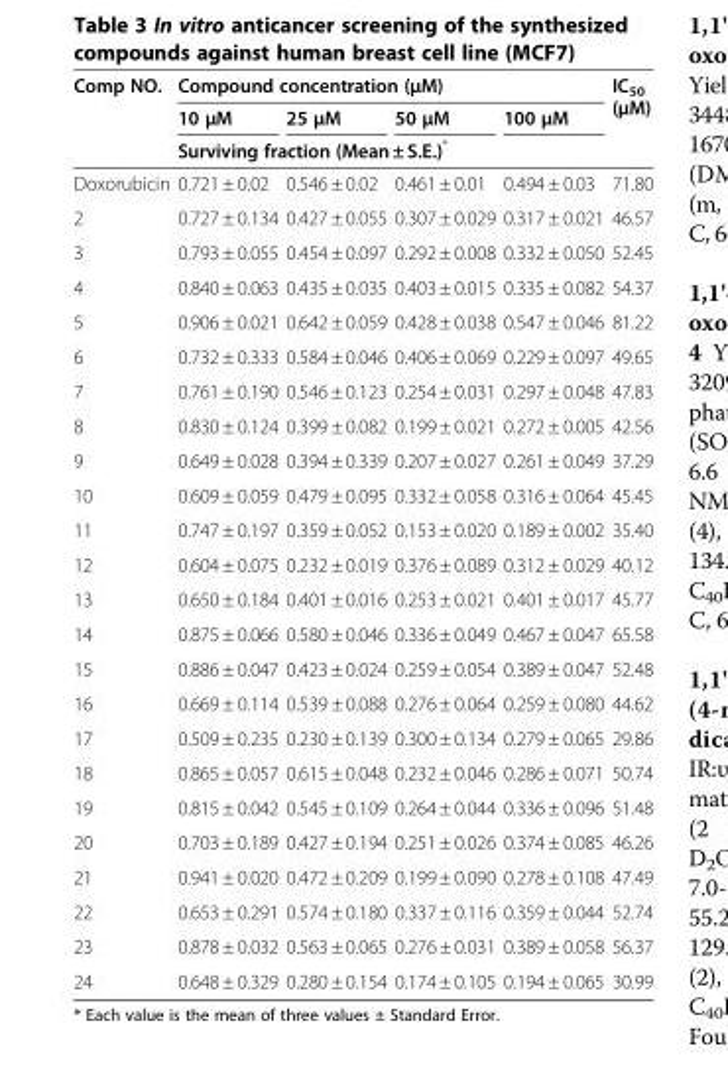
<table><thead><tr><td rowspan="3">Comp NO.</td><td colspan="4">Compound concentration (μM)</td><td rowspan="3">IC<sub>50</sub> (μM)</td></tr><tr><td>10 μM</td><td>25 μM</td><td>50 μM</td><td>100 μM</td></tr><tr><td colspan="4">Surviving fraction (Mean ± S.E.)*</td></tr></thead><tbody><tr><td>Doxorubicin</td><td>0.721 ± 0.02</td><td>0.546 ± 0.02</td><td>0.461 ± 0.01</td><td>0.494 ± 0.03</td><td>71.80</td></tr><tr><td>2</td><td>0.727 ± 0.134</td><td>0.427 ± 0.055</td><td>0.307 ± 0.029</td><td>0.317 ± 0.021</td><td>46.57</td></tr><tr><td>3</td><td>0.793 ± 0.055</td><td>0.454 ± 0.097</td><td>0.292 ± 0.008</td><td>0.332 ± 0.050</td><td>52.45</td></tr><tr><td>4</td><td>0.840 ± 0.063</td><td>0.435 ± 0.035</td><td>0.403 ± 0.015</td><td>0.335 ± 0.082</td><td>54.37</td></tr><tr><td>5</td><td>0.906 ± 0.021</td><td>0.642 ± 0.059</td><td>0.428 ± 0.038</td><td>0.547 ± 0.046</td><td>81.22</td></tr><tr><td>6</td><td>0.732 ± 0.333</td><td>0.584 ± 0.046</td><td>0.406 ± 0.069</td><td>0.229 ± 0.097</td><td>49.65</td></tr><tr><td>7</td><td>0.761 ± 0.190</td><td>0.546 ± 0.123</td><td>0.254 ± 0.031</td><td>0.297 ± 0.048</td><td>47.83</td></tr><tr><td>8</td><td>0.830 ± 0.124</td><td>0.399 ± 0.082</td><td>0.199 ± 0.021</td><td>0.272 ± 0.005</td><td>42.56</td></tr><tr><td>9</td><td>0.649 ± 0.028</td><td>0.394 ± 0.339</td><td>0.207 ± 0.027</td><td>0.261 ± 0.049</td><td>37.29</td></tr><tr><td>10</td><td>0.609 ± 0.059</td><td>0.479 ± 0.095</td><td>0.332 ± 0.058</td><td>0.316 ± 0.064</td><td>45.45</td></tr><tr><td>11</td><td>0.747 ± 0.197</td><td>0.359 ± 0.052</td><td>0.153 ± 0.020</td><td>0.189 ± 0.002</td><td>35.40</td></tr><tr><td>12</td><td>0.604 ± 0.075</td><td>0.232 ± 0.019</td><td>0.376 ± 0.089</td><td>0.312 ± 0.029</td><td>40.12</td></tr><tr><td>13</td><td>0.650 ± 0.184</td><td>0.401 ± 0.016</td><td>0.253 ± 0.021</td><td>0.401 ± 0.017</td><td>45.77</td></tr><tr><td>14</td><td>0.875 ± 0.066</td><td>0.580 ± 0.046</td><td>0.336 ± 0.049</td><td>0.467 ± 0.047</td><td>65.58</td></tr><tr><td>15</td><td>0.886 ± 0.047</td><td>0.423 ± 0.024</td><td>0.259 ± 0.054</td><td>0.389 ± 0.047</td><td>52.48</td></tr><tr><td>16</td><td>0.669 ± 0.114</td><td>0.539 ± 0.088</td><td>0.276 ± 0.064</td><td>0.259 ± 0.080</td><td>44.62</td></tr><tr><td>17</td><td>0.509 ± 0.235</td><td>0.230 ± 0.139</td><td>0.300 ± 0.134</td><td>0.279 ± 0.065</td><td>29.86</td></tr><tr><td>18</td><td>0.865 ± 0.057</td><td>0.615 ± 0.048</td><td>0.232 ± 0.046</td><td>0.286 ± 0.071</td><td>50.74</td></tr><tr><td>19</td><td>0.815 ± 0.042</td><td>0.545 ± 0.109</td><td>0.264 ± 0.044</td><td>0.336 ± 0.096</td><td>51.48</td></tr><tr><td>20</td><td>0.703 ± 0.189</td><td>0.427 ± 0.194</td><td>0.251 ± 0.026</td><td>0.374 ± 0.085</td><td>46.26</td></tr><tr><td>21</td><td>0.941 ± 0.020</td><td>0.472 ± 0.209</td><td>0.199 ± 0.090</td><td>0.278 ± 0.108</td><td>47.49</td></tr><tr><td>22</td><td>0.653 ± 0.291</td><td>0.574 ± 0.180</td><td>0.337 ± 0.116</td><td>0.359 ± 0.044</td><td>52.74</td></tr><tr><td>23</td><td>0.878 ± 0.032</td><td>0.563 ± 0.065</td><td>0.276 ± 0.031</td><td>0.389 ± 0.058</td><td>56.37</td></tr><tr><td>24</td><td>0.648 ± 0.329</td><td>0.280 ± 0.154</td><td>0.174 ± 0.105</td><td>0.194 ± 0.065</td><td>30.99</td></tr></tbody></table>